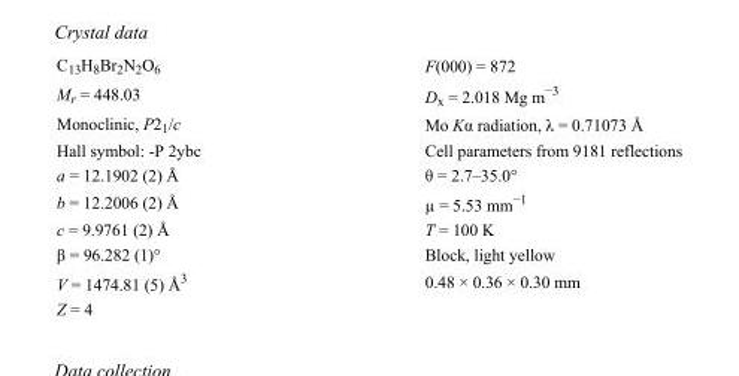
<table><tbody><tr><td>C<sub>13</sub>H<sub>8</sub>Br<sub>2</sub>N<sub>2</sub>O<sub>6</sub></td><td>F(000) = 872</td></tr><tr><td>M<sub>r</sub> = 448.03</td><td>D<sub>x</sub> = 2.018 Mg m<sup>−3</sup></td></tr><tr><td>Monoclinic, P2<sub>1</sub>/c</td><td>Mo Kα radiation, λ = 0.71073 Å</td></tr><tr><td>Hall symbol: -P 2ybc</td><td>Cell parameters from 9181 reflections</td></tr><tr><td>a = 12.1902 (2) Å</td><td>θ = 2.7–35.0°</td></tr><tr><td>b = 12.2006 (2) Å</td><td>µ = 5.53 mm<sup>−1</sup></td></tr><tr><td>c = 9.9761 (2) Å</td><td>T = 100 K</td></tr><tr><td>β = 96.282 (1)°</td><td>Block, light yellow</td></tr><tr><td>V = 1474.81 (5) Å<sup>3</sup></td><td>0.48 × 0.36 × 0.30 mm</td></tr><tr><td>Z = 4</td><td></td></tr></tbody></table>